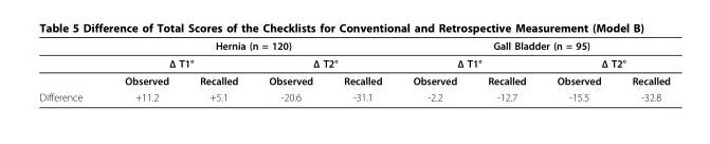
<table><thead><tr><td rowspan="3"></td><td colspan="4">Hernia (n = 120)</td><td colspan="4">Gall Bladder (n = 95)</td></tr><tr><td colspan="2">Δ T1°</td><td colspan="2">Δ T2°</td><td colspan="2">Δ T1°</td><td colspan="2">Δ T2°</td></tr><tr><td>Observed</td><td>Recalled</td><td>Observed</td><td>Recalled</td><td>Observed</td><td>Recalled</td><td>Observed</td><td>Recalled</td></tr></thead><tbody><tr><td>Difference</td><td>+11.2</td><td>+5.1</td><td>-20.6</td><td>-31.1</td><td>-2.2</td><td>-12.7</td><td>-15.5</td><td>-32.8</td></tr></tbody></table>